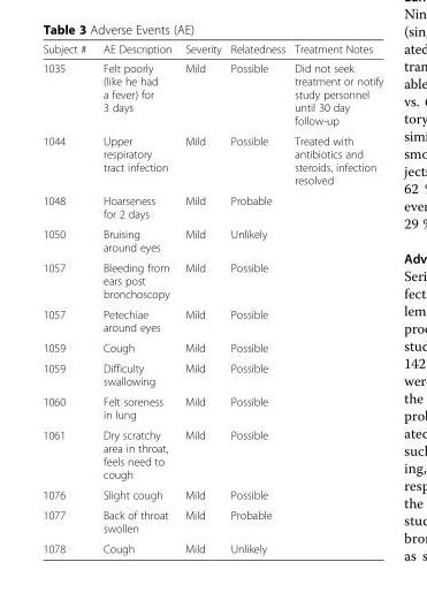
<table><thead><tr><td>Subject #</td><td>AE Description</td><td>Severity</td><td>Relatedness</td><td>Treatment Notes</td></tr></thead><tbody><tr><td>1035</td><td>Felt poorly (like he had a fever) for 3 days</td><td>Mild</td><td>Possible</td><td>Did not seek treatment or notify study personnel until 30 day follow-up</td></tr><tr><td>1044</td><td>Upper respiratory tract infection</td><td>Mild</td><td>Possible</td><td>Treated with antibiotics and steroids, infection resolved</td></tr><tr><td>1048</td><td>Hoarseness for 2 days</td><td>Mild</td><td>Probable</td><td></td></tr><tr><td>1050</td><td>Bruising around eyes</td><td>Mild</td><td>Unlikely</td><td></td></tr><tr><td>1057</td><td>Bleeding from ears post bronchoscopy</td><td>Mild</td><td>Possible</td><td></td></tr><tr><td>1057</td><td>Petechiae around eyes</td><td>Mild</td><td>Possible</td><td></td></tr><tr><td>1059</td><td>Cough</td><td>Mild</td><td>Possible</td><td></td></tr><tr><td>1059</td><td>Difficulty swallowing</td><td>Mild</td><td>Possible</td><td></td></tr><tr><td>1060</td><td>Felt soreness in lung</td><td>Mild</td><td>Possible</td><td></td></tr><tr><td>1061</td><td>Dry scratchy area in throat, feels need to cough</td><td>Mild</td><td>Possible</td><td></td></tr><tr><td>1076</td><td>Slight cough</td><td>Mild</td><td>Possible</td><td></td></tr><tr><td>1077</td><td>Back of throat swollen</td><td>Mild</td><td>Probable</td><td></td></tr><tr><td>1078</td><td>Cough</td><td>Mild</td><td>Unlikely</td><td></td></tr></tbody></table>